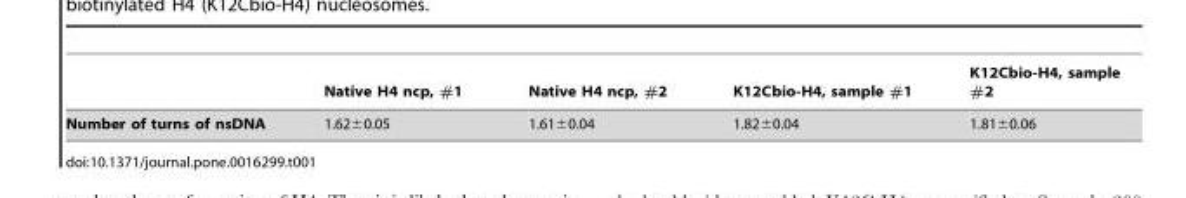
<table><thead><tr><td></td><td>Native H4 ncp, #1</td><td>Native H4 ncp, #2</td><td>K12Cbio-H4, sample #1</td><td>K12Cbio-H4, sample #2</td></tr></thead><tbody><tr><td>Number of turns of nsDNA</td><td>1.62±0.05</td><td>1.61±0.04</td><td>1.82±0.04</td><td>1.81±0.06</td></tr></tbody></table>